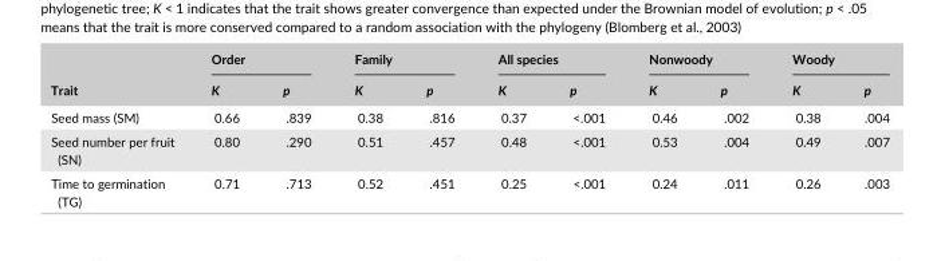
<table><thead><tr><td rowspan="2">Trait</td><td colspan="2">Order</td><td colspan="2">Family</td><td colspan="2">All species</td><td colspan="2">Nonwoody</td><td colspan="2">Woody</td></tr><tr><td>K</td><td>p</td><td>K</td><td>p</td><td>K</td><td>p</td><td>K</td><td>p</td><td>K</td><td>p</td></tr></thead><tbody><tr><td>Seed mass (SM)</td><td>0.66</td><td>.839</td><td>0.38</td><td>.816</td><td>0.37</td><td>&lt;.001</td><td>0.46</td><td>.002</td><td>0.38</td><td>.004</td></tr><tr><td>Seed number per fruit (SN)</td><td>0.80</td><td>.290</td><td>0.51</td><td>.457</td><td>0.48</td><td>&lt;.001</td><td>0.53</td><td>.004</td><td>0.49</td><td>.007</td></tr><tr><td>Time to germination (TG)</td><td>0.71</td><td>.713</td><td>0.52</td><td>.451</td><td>0.25</td><td>&lt;.001</td><td>0.24</td><td>.011</td><td>0.26</td><td>.003</td></tr></tbody></table>